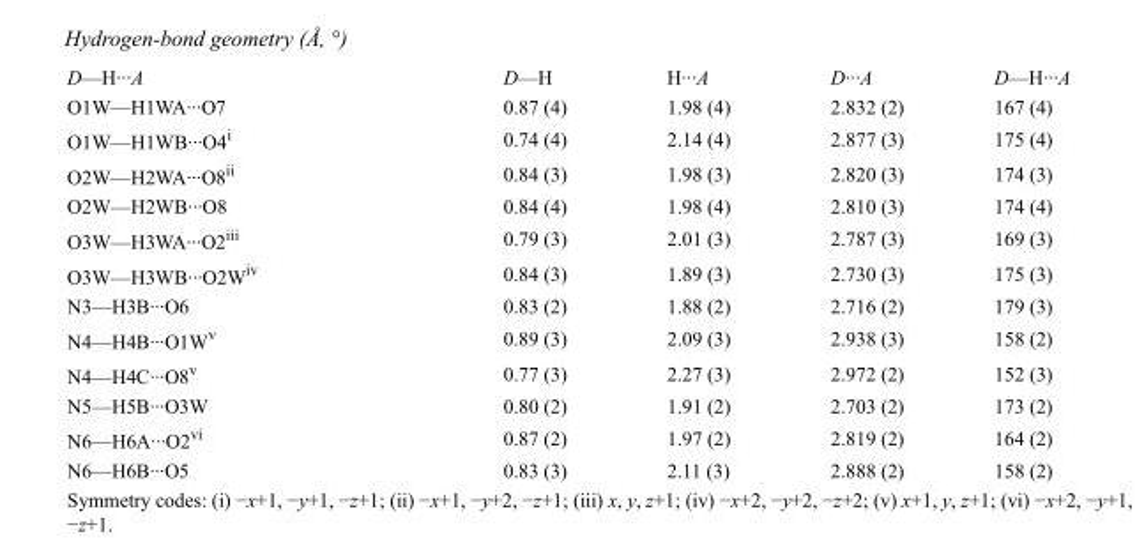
<table><tbody><tr><td>D—H···A</td><td>D—H</td><td>H···A</td><td>D···A</td><td>D—H···A</td></tr><tr><td>O1W—H1WA···O7</td><td>0.87 (4)</td><td>1.98 (4)</td><td>2.832 (2)</td><td>167 (4)</td></tr><tr><td>O1W—H1WB···O4<sup>i</sup></td><td>0.74 (4)</td><td>2.14 (4)</td><td>2.877 (3)</td><td>175 (4)</td></tr><tr><td>O2W—H2WA···O8<sup>ii</sup></td><td>0.84 (3)</td><td>1.98 (3)</td><td>2.820 (3)</td><td>174 (3)</td></tr><tr><td>O2W—H2WB···O8</td><td>0.84 (4)</td><td>1.98 (4)</td><td>2.810 (3)</td><td>174 (4)</td></tr><tr><td>O3W—H3WA···O2<sup>iii</sup></td><td>0.79 (3)</td><td>2.01 (3)</td><td>2.787 (3)</td><td>169 (3)</td></tr><tr><td>O3W—H3WB···O2W<sup>iv</sup></td><td>0.84 (3)</td><td>1.89 (3)</td><td>2.730 (3)</td><td>175 (3)</td></tr><tr><td>N3—H3B···O6</td><td>0.83 (2)</td><td>1.88 (2)</td><td>2.716 (2)</td><td>179 (3)</td></tr><tr><td>N4—H4B···O1W<sup>v</sup></td><td>0.89 (3)</td><td>2.09 (3)</td><td>2.938 (3)</td><td>158 (2)</td></tr><tr><td>N4—H4C···O8<sup>v</sup></td><td>0.77 (3)</td><td>2.27 (3)</td><td>2.972 (2)</td><td>152 (3)</td></tr><tr><td>N5—H5B···O3W</td><td>0.80 (2)</td><td>1.91 (2)</td><td>2.703 (2)</td><td>173 (2)</td></tr><tr><td>N6—H6A···O2<sup>vi</sup></td><td>0.87 (2)</td><td>1.97 (2)</td><td>2.819 (2)</td><td>164 (2)</td></tr><tr><td>N6—H6B···O5</td><td>0.83 (3)</td><td>2.11 (3)</td><td>2.888 (2)</td><td>158 (2)</td></tr></tbody></table>